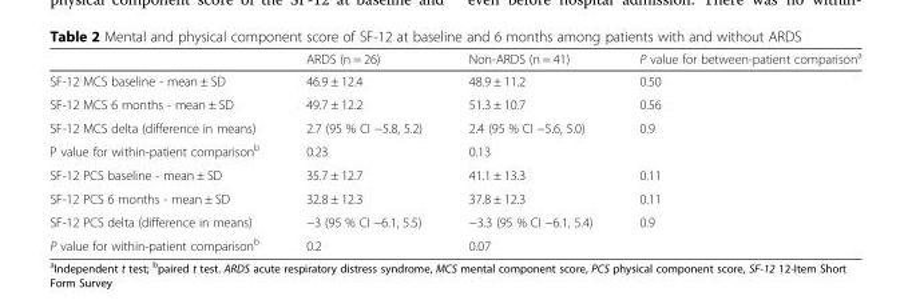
<table><thead><tr><td></td><td>ARDS (n = 26)</td><td>Non-ARDS (n = 41)</td><td>P value for between-patient comparison<sup>a</sup></td></tr></thead><tbody><tr><td>SF-12 MCS baseline - mean ± SD</td><td>46.9 ± 12.4</td><td>48.9 ± 11.2</td><td>0.50</td></tr><tr><td>SF-12 MCS 6 months - mean ± SD</td><td>49.7 ± 12.2</td><td>51.3 ± 10.7</td><td>0.56</td></tr><tr><td>SF-12 MCS delta (difference in means)</td><td>2.7 (95 % CI −5.8, 5.2)</td><td>2.4 (95 % CI −5.6, 5.0)</td><td>0.9</td></tr><tr><td>P value for within-patient comparison<sup>b</sup></td><td>0.23</td><td>0.13</td><td></td></tr><tr><td>SF-12 PCS baseline - mean ± SD</td><td>35.7 ± 12.7</td><td>41.1 ± 13.3</td><td>0.11</td></tr><tr><td>SF-12 PCS 6 months - mean ± SD</td><td>32.8 ± 12.3</td><td>37.8 ± 12.3</td><td>0.11</td></tr><tr><td>SF-12 PCS delta (difference in means)</td><td>−3 (95 % CI −6.1, 5.5)</td><td>−3.3 (95 % CI −6.1, 5.4)</td><td>0.9</td></tr><tr><td>P value for within-patient comparison<sup>b</sup></td><td>0.2</td><td>0.07</td><td></td></tr></tbody></table>